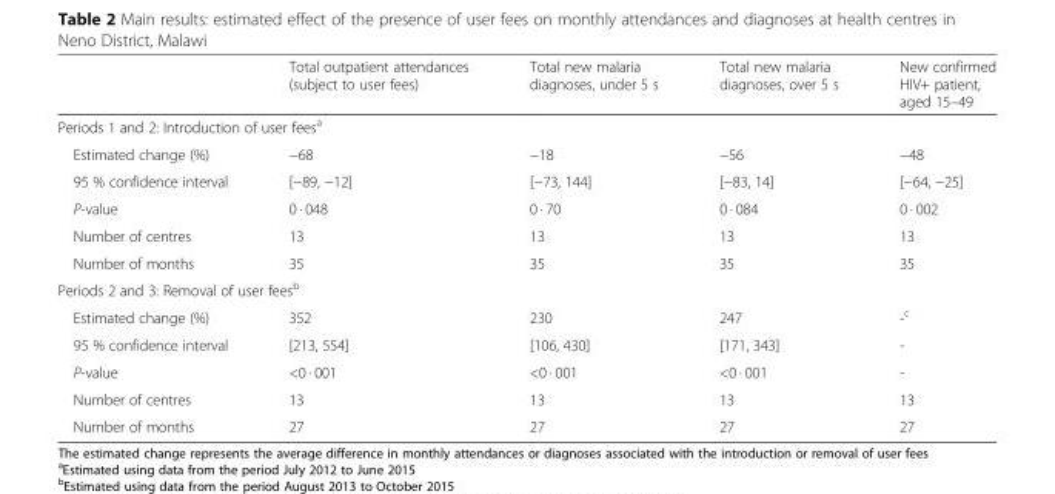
<table><thead><tr><td></td><td>Total outpatient attendances (subject to user fees)</td><td>Total new malaria diagnoses, under 5 s</td><td>Total new malaria diagnoses, over 5 s</td><td>New confirmed HIV+ patient, aged 15–49</td></tr></thead><tbody><tr><td colspan="5">Periods 1 and 2: Introduction of user fees<sup>a</sup></td></tr><tr><td>Estimated change (%)</td><td>−68</td><td>−18</td><td>−56</td><td>−48</td></tr><tr><td>95 % confidence interval</td><td>[−89, −12]</td><td>[−73, 144]</td><td>[−83, 14]</td><td>[−64, −25]</td></tr><tr><td>P-value</td><td>0 · 048</td><td>0 · 70</td><td>0 · 084</td><td>0 · 002</td></tr><tr><td>Number of centres</td><td>13</td><td>13</td><td>13</td><td>13</td></tr><tr><td>Number of months</td><td>35</td><td>35</td><td>35</td><td>35</td></tr><tr><td colspan="5">Periods 2 and 3: Removal of user fees<sup>b</sup></td></tr><tr><td>Estimated change (%)</td><td>352</td><td>230</td><td>247</td><td>-<sup>c</sup></td></tr><tr><td>95 % confidence interval</td><td>[213, 554]</td><td>[106, 430]</td><td>[171, 343]</td><td>-</td></tr><tr><td>P-value</td><td>&lt;0 · 001</td><td>&lt;0 · 001</td><td>&lt;0 · 001</td><td>-</td></tr><tr><td>Number of centres</td><td>13</td><td>13</td><td>13</td><td>13</td></tr><tr><td>Number of months</td><td>27</td><td>27</td><td>27</td><td>27</td></tr></tbody></table>